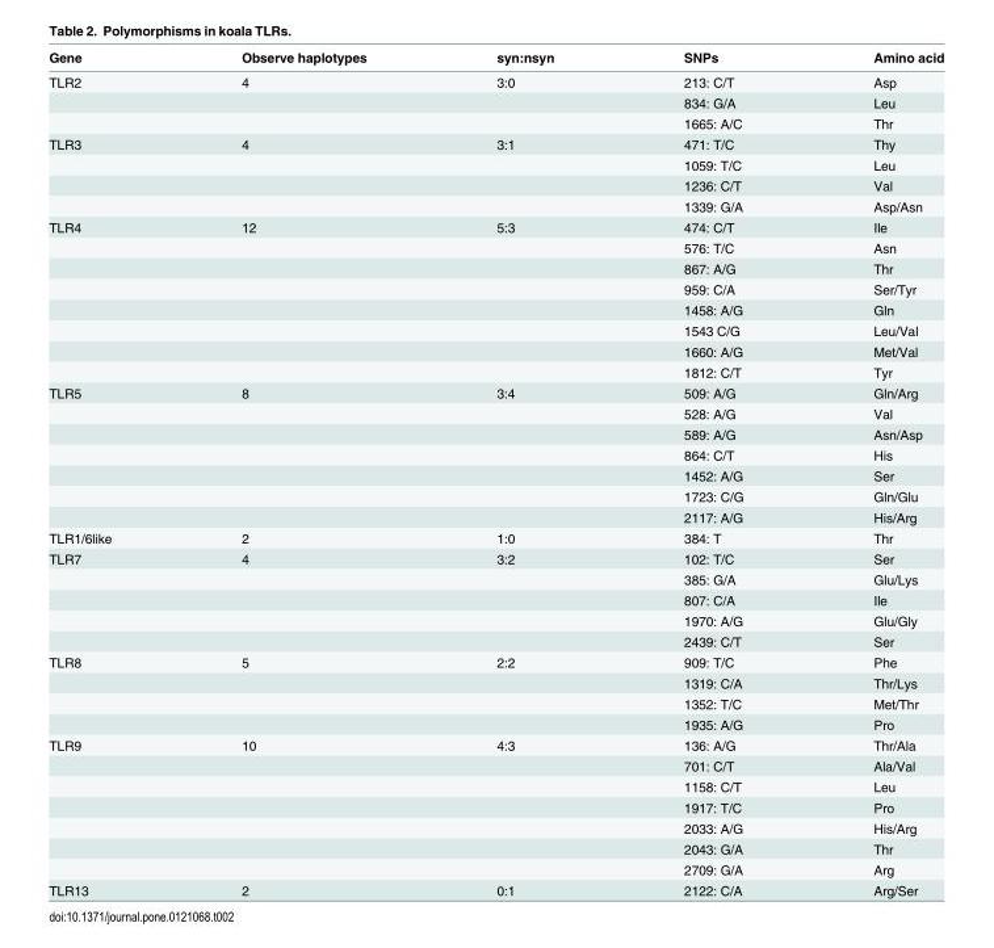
<table><thead><tr><td>Gene</td><td>Observe haplotypes</td><td>syn:nsyn</td><td>SNPs</td><td>Amino acid</td></tr></thead><tbody><tr><td rowspan="3">TLR2</td><td>4</td><td>3:0</td><td>213: C/T</td><td>Asp</td></tr><tr><td></td><td></td><td>834: G/A</td><td>Leu</td></tr><tr><td></td><td></td><td>1665: A/C</td><td>Thr</td></tr><tr><td rowspan="4">TLR3</td><td>4</td><td>3:1</td><td>471: T/C</td><td>Thy</td></tr><tr><td></td><td></td><td>1059: T/C</td><td>Leu</td></tr><tr><td></td><td></td><td>1236: C/T</td><td>Val</td></tr><tr><td></td><td></td><td>1339: G/A</td><td>Asp/Asn</td></tr><tr><td rowspan="8">TLR4</td><td>12</td><td>5:3</td><td>474: C/T</td><td>Ile</td></tr><tr><td></td><td></td><td>576: T/C</td><td>Asn</td></tr><tr><td></td><td></td><td>867: A/G</td><td>Thr</td></tr><tr><td></td><td></td><td>959: C/A</td><td>Ser/Tyr</td></tr><tr><td></td><td></td><td>1458: A/G</td><td>Gln</td></tr><tr><td></td><td></td><td>1543 C/G</td><td>Leu/Val</td></tr><tr><td></td><td></td><td>1660: A/G</td><td>Met/Val</td></tr><tr><td></td><td></td><td>1812: C/T</td><td>Tyr</td></tr><tr><td rowspan="7">TLR5</td><td>8</td><td>3:4</td><td>509: A/G</td><td>Gln/Arg</td></tr><tr><td></td><td></td><td>528: A/G</td><td>Val</td></tr><tr><td></td><td></td><td>589: A/G</td><td>Asn/Asp</td></tr><tr><td></td><td></td><td>864: C/T</td><td>His</td></tr><tr><td></td><td></td><td>1452: A/G</td><td>Ser</td></tr><tr><td></td><td></td><td>1723: C/G</td><td>Gln/Glu</td></tr><tr><td></td><td></td><td>2117: A/G</td><td>His/Arg</td></tr><tr><td>TLR1/6like</td><td>2</td><td>1:0</td><td>384: T</td><td>Thr</td></tr><tr><td rowspan="5">TLR7</td><td>4</td><td>3:2</td><td>102: T/C</td><td>Ser</td></tr><tr><td></td><td></td><td>385: G/A</td><td>Glu/Lys</td></tr><tr><td></td><td></td><td>807: C/A</td><td>Ile</td></tr><tr><td></td><td></td><td>1970: A/G</td><td>Glu/Gly</td></tr><tr><td></td><td></td><td>2439: C/T</td><td>Ser</td></tr><tr><td rowspan="4">TLR8</td><td>5</td><td>2:2</td><td>909: T/C</td><td>Phe</td></tr><tr><td></td><td></td><td>1319: C/A</td><td>Thr/Lys</td></tr><tr><td></td><td></td><td>1352: T/C</td><td>Met/Thr</td></tr><tr><td></td><td></td><td>1935: A/G</td><td>Pro</td></tr><tr><td rowspan="7">TLR9</td><td>10</td><td>4:3</td><td>136: A/G</td><td>Thr/Ala</td></tr><tr><td></td><td></td><td>701: C/T</td><td>Ala/Val</td></tr><tr><td></td><td></td><td>1158: C/T</td><td>Leu</td></tr><tr><td></td><td></td><td>1917: T/C</td><td>Pro</td></tr><tr><td></td><td></td><td>2033: A/G</td><td>His/Arg</td></tr><tr><td></td><td></td><td>2043: G/A</td><td>Thr</td></tr><tr><td></td><td></td><td>2709: G/A</td><td>Arg</td></tr><tr><td>TLR13</td><td>2</td><td>0:1</td><td>2122: C/A</td><td>Arg/Ser</td></tr></tbody></table>